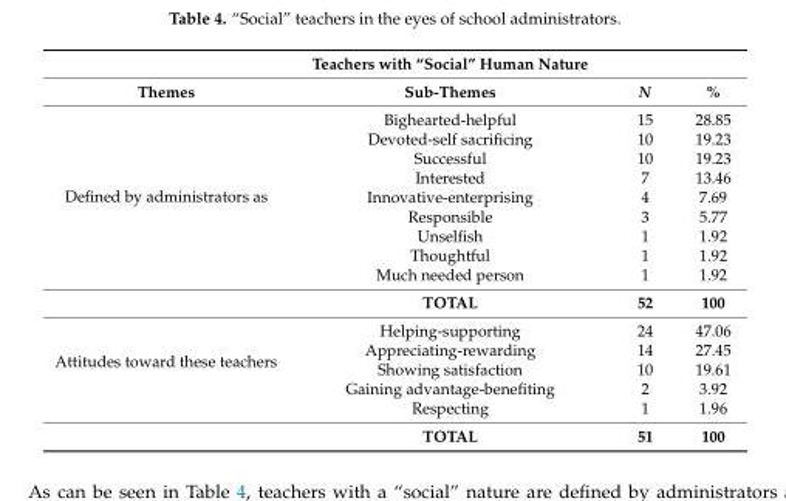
<table><thead><tr><td rowspan="2">Themes</td><td rowspan="2">Teachers with “Social” Human Nature Sub-Themes</td><td rowspan="2">N</td><td rowspan="2">%</td></tr><tr></tr></thead><tbody><tr><td rowspan="10">Defined by administrators as</td><td>Bighearted-helpful</td><td>15</td><td>28.85</td></tr><tr><td>Devoted-self sacrificing</td><td>10</td><td>19.23</td></tr><tr><td>Successful</td><td>10</td><td>19.23</td></tr><tr><td>Interested</td><td>7</td><td>13.46</td></tr><tr><td>Innovative-enterprising</td><td>4</td><td>7.69</td></tr><tr><td>Responsible</td><td>3</td><td>5.77</td></tr><tr><td>Unselfish</td><td>1</td><td>1.92</td></tr><tr><td>Thoughtful</td><td>1</td><td>1.92</td></tr><tr><td>Much needed person</td><td>1</td><td>1.92</td></tr><tr><td>TOTAL</td><td>52</td><td>100</td></tr><tr><td rowspan="6">Attitudes toward these teachers</td><td>Helping-supporting</td><td>24</td><td>47.06</td></tr><tr><td>Appreciating-rewarding</td><td>14</td><td>27.45</td></tr><tr><td>Showing satisfaction</td><td>10</td><td>19.61</td></tr><tr><td>Gaining advantage-benefiting</td><td>2</td><td>3.92</td></tr><tr><td>Respecting</td><td>1</td><td>1.96</td></tr><tr><td>TOTAL</td><td>51</td><td>100</td></tr></tbody></table>